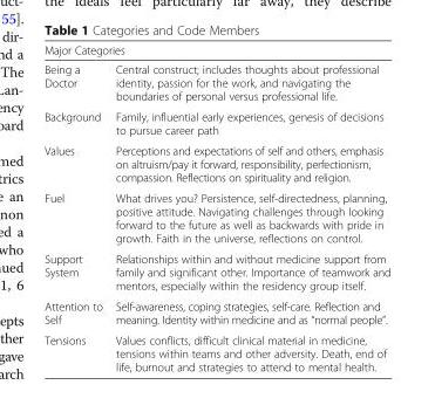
<table><thead><tr><td colspan="2">Major Categories</td></tr><tr><td>Being a Doctor</td><td>Central construct; includes thoughts about professional identity, passion for the work, and navigating the boundaries of personal versus professional life.</td></tr></thead><tbody><tr><td>Background</td><td>Family, influential early experiences, genesis of decisions to pursue career path</td></tr><tr><td>Values</td><td>Perceptions and expectations of self and others, emphasis on altruism/pay it forward, responsibility, perfectionism, compassion. Reflections on spirituality and religion.</td></tr><tr><td>Fuel</td><td>What drives you? Persistence, self-directedness, planning, positive attitude. Navigating challenges through looking forward to the future as well as backwards with pride in growth. Faith in the universe, reflections on control.</td></tr><tr><td>Support System</td><td>Relationships within and without medicine support from family and significant other. Importance of teamwork and mentors, especially within the residency group itself.</td></tr><tr><td>Attention to Self</td><td>Self-awareness, coping strategies, self-care. Reflection and meaning. Identity within medicine and as “normal people”.</td></tr><tr><td>Tensions</td><td>Values conflicts, difficult clinical material in medicine, tensions within teams and other adversity. Death, end of life, burnout and strategies to attend to mental health.</td></tr></tbody></table>